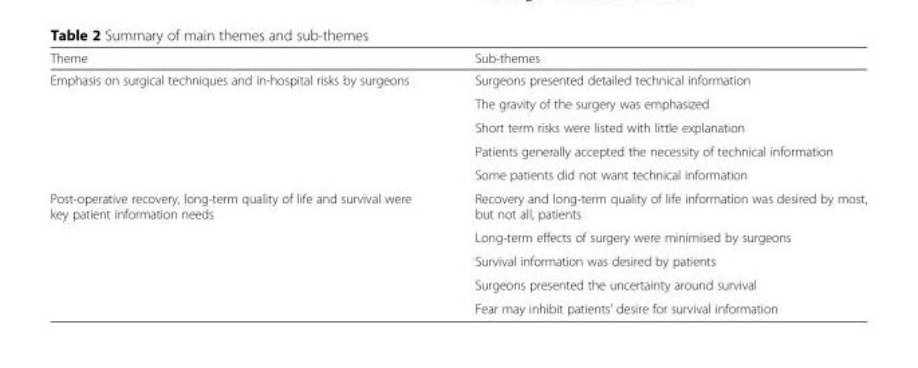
<table><thead><tr><td>Theme</td><td>Sub-themes</td></tr></thead><tbody><tr><td rowspan="5">Emphasis on surgical techniques and in-hospital risks by surgeons</td><td>Surgeons presented detailed technical information</td></tr><tr><td>The gravity of the surgery was emphasized</td></tr><tr><td>Short term risks were listed with little explanation</td></tr><tr><td>Patients generally accepted the necessity of technical information</td></tr><tr><td>Some patients did not want technical information</td></tr><tr><td rowspan="5">Post-operative recovery, long-term quality of life and survival were key patient information needs</td><td>Recovery and long-term quality of life information was desired by most, but not all, patients</td></tr><tr><td>Long-term effects of surgery were minimised by surgeons</td></tr><tr><td>Survival information was desired by patients</td></tr><tr><td>Surgeons presented the uncertainty around survival</td></tr><tr><td>Fear may inhibit patients’ desire for survival information</td></tr></tbody></table>